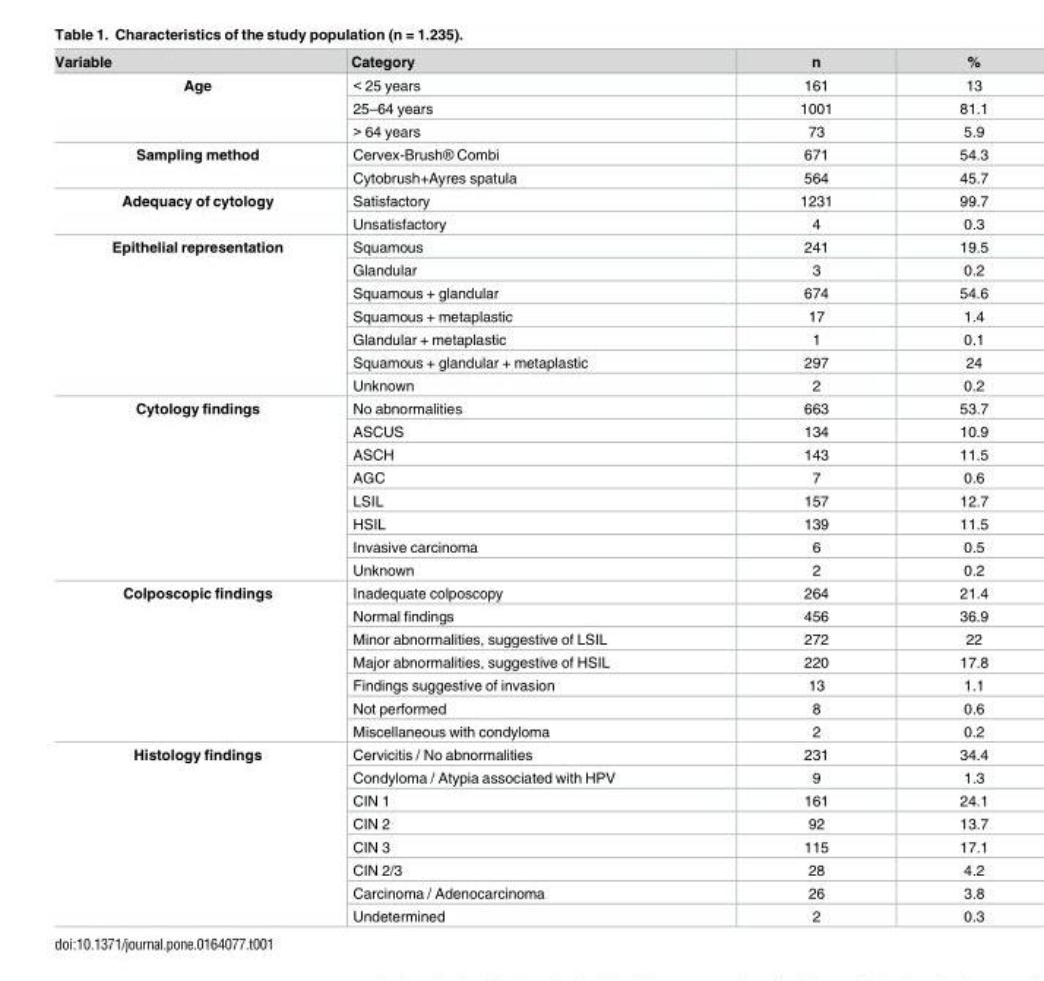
<table><thead><tr><td>Variable</td><td>Category</td><td>n</td><td>%</td></tr></thead><tbody><tr><td rowspan="3">Age</td><td>&lt; 25 years</td><td>161</td><td>13</td></tr><tr><td>25–64 years</td><td>1001</td><td>81.1</td></tr><tr><td>&gt; 64 years</td><td>73</td><td>5.9</td></tr><tr><td rowspan="2">Sampling method</td><td>Cervex-Brush® Combi</td><td>671</td><td>54.3</td></tr><tr><td>Cytobrush+Ayres spatula</td><td>564</td><td>45.7</td></tr><tr><td rowspan="2">Adequacy of cytology</td><td>Satisfactory</td><td>1231</td><td>99.7</td></tr><tr><td>Unsatisfactory</td><td>4</td><td>0.3</td></tr><tr><td rowspan="7">Epithelial representation</td><td>Squamous</td><td>241</td><td>19.5</td></tr><tr><td>Glandular</td><td>3</td><td>0.2</td></tr><tr><td>Squamous + glandular</td><td>674</td><td>54.6</td></tr><tr><td>Squamous + metaplastic</td><td>17</td><td>1.4</td></tr><tr><td>Glandular + metaplastic</td><td>1</td><td>0.1</td></tr><tr><td>Squamous + glandular + metaplastic</td><td>297</td><td>24</td></tr><tr><td>Unknown</td><td>2</td><td>0.2</td></tr><tr><td rowspan="8">Cytology findings</td><td>No abnormalities</td><td>663</td><td>53.7</td></tr><tr><td>ASCUS</td><td>134</td><td>10.9</td></tr><tr><td>ASCH</td><td>143</td><td>11.5</td></tr><tr><td>AGC</td><td>7</td><td>0.6</td></tr><tr><td>LSIL</td><td>157</td><td>12.7</td></tr><tr><td>HSIL</td><td>139</td><td>11.5</td></tr><tr><td>Invasive carcinoma</td><td>6</td><td>0.5</td></tr><tr><td>Unknown</td><td>2</td><td>0.2</td></tr><tr><td rowspan="7">Colposcopic findings</td><td>Inadequate colposcopy</td><td>264</td><td>21.4</td></tr><tr><td>Normal findings</td><td>456</td><td>36.9</td></tr><tr><td>Minor abnormalities, suggestive of LSIL</td><td>272</td><td>22</td></tr><tr><td>Major abnormalities, suggestive of HSIL</td><td>220</td><td>17.8</td></tr><tr><td>Findings suggestive of invasion</td><td>13</td><td>1.1</td></tr><tr><td>Not performed</td><td>8</td><td>0.6</td></tr><tr><td>Miscellaneous with condyloma</td><td>2</td><td>0.2</td></tr><tr><td rowspan="8">Histology findings</td><td>Cervicitis / No abnormalities</td><td>231</td><td>34.4</td></tr><tr><td>Condyloma / Atypia associated with HPV</td><td>9</td><td>1.3</td></tr><tr><td>CIN 1</td><td>161</td><td>24.1</td></tr><tr><td>CIN 2</td><td>92</td><td>13.7</td></tr><tr><td>CIN 3</td><td>115</td><td>17.1</td></tr><tr><td>CIN 2/3</td><td>28</td><td>4.2</td></tr><tr><td>Carcinoma / Adenocarcinoma</td><td>26</td><td>3.8</td></tr><tr><td>Undetermined</td><td>2</td><td>0.3</td></tr></tbody></table>